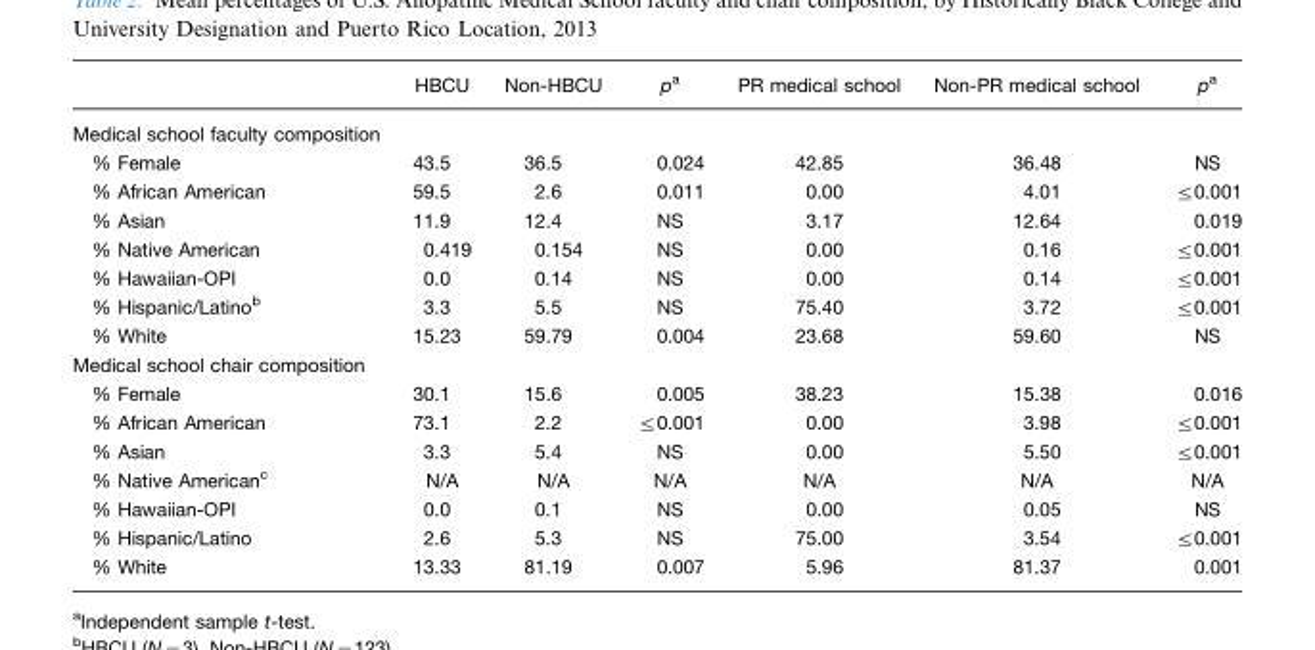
<table><thead><tr><td></td><td>HBCU</td><td>Non-HBCU</td><td>p<sup>a</sup></td><td>PR medical school</td><td>Non-PR medical school</td><td>p<sup>a</sup></td></tr></thead><tbody><tr><td colspan="7">Medical school faculty composition</td></tr><tr><td>% Female</td><td>43.5</td><td>36.5</td><td>0.024</td><td>42.85</td><td>36.48</td><td>NS</td></tr><tr><td>% African American</td><td>59.5</td><td>2.6</td><td>0.011</td><td>0.00</td><td>4.01</td><td>≤0.001</td></tr><tr><td>% Asian</td><td>11.9</td><td>12.4</td><td>NS</td><td>3.17</td><td>12.64</td><td>0.019</td></tr><tr><td>% Native American</td><td>0.419</td><td>0.154</td><td>NS</td><td>0.00</td><td>0.16</td><td>≤0.001</td></tr><tr><td>% Hawaiian-OPI</td><td>0.0</td><td>0.14</td><td>NS</td><td>0.00</td><td>0.14</td><td>≤0.001</td></tr><tr><td>% Hispanic/Latino<sup>b</sup></td><td>3.3</td><td>5.5</td><td>NS</td><td>75.40</td><td>3.72</td><td>≤0.001</td></tr><tr><td>% White</td><td>15.23</td><td>59.79</td><td>0.004</td><td>23.68</td><td>59.60</td><td>NS</td></tr><tr><td colspan="7">Medical school chair composition</td></tr><tr><td>% Female</td><td>30.1</td><td>15.6</td><td>0.005</td><td>38.23</td><td>15.38</td><td>0.016</td></tr><tr><td>% African American</td><td>73.1</td><td>2.2</td><td>≤0.001</td><td>0.00</td><td>3.98</td><td>≤0.001</td></tr><tr><td>% Asian</td><td>3.3</td><td>5.4</td><td>NS</td><td>0.00</td><td>5.50</td><td>≤0.001</td></tr><tr><td>% Native American<sup>c</sup></td><td>N/A</td><td>N/A</td><td>N/A</td><td>N/A</td><td>N/A</td><td>N/A</td></tr><tr><td>% Hawaiian-OPI</td><td>0.0</td><td>0.1</td><td>NS</td><td>0.00</td><td>0.05</td><td>NS</td></tr><tr><td>% Hispanic/Latino</td><td>2.6</td><td>5.3</td><td>NS</td><td>75.00</td><td>3.54</td><td>≤0.001</td></tr><tr><td>% White</td><td>13.33</td><td>81.19</td><td>0.007</td><td>5.96</td><td>81.37</td><td>0.001</td></tr></tbody></table>